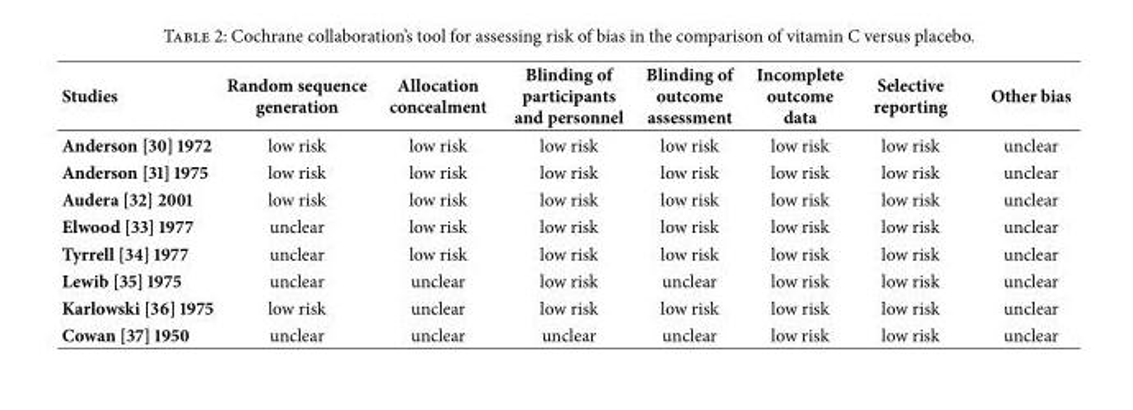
<table><thead><tr><td>Studies</td><td>Random sequence generation</td><td>Allocation concealment</td><td>Blinding of participants and personnel</td><td>Blinding of outcome assessment</td><td>Incomplete outcome data</td><td>Selective reporting</td><td>Other bias</td></tr></thead><tbody><tr><td>Anderson [30] 1972</td><td>low risk</td><td>low risk</td><td>low risk</td><td>low risk</td><td>low risk</td><td>low risk</td><td>unclear</td></tr><tr><td>Anderson [31] 1975</td><td>low risk</td><td>low risk</td><td>low risk</td><td>low risk</td><td>low risk</td><td>low risk</td><td>unclear</td></tr><tr><td>Audera [32] 2001</td><td>low risk</td><td>low risk</td><td>low risk</td><td>low risk</td><td>low risk</td><td>low risk</td><td>unclear</td></tr><tr><td>Elwood [33] 1977</td><td>unclear</td><td>low risk</td><td>low risk</td><td>low risk</td><td>low risk</td><td>low risk</td><td>unclear</td></tr><tr><td>Tyrrell [34] 1977</td><td>unclear</td><td>low risk</td><td>low risk</td><td>low risk</td><td>low risk</td><td>low risk</td><td>unclear</td></tr><tr><td>Lewib [35] 1975</td><td>unclear</td><td>unclear</td><td>low risk</td><td>unclear</td><td>low risk</td><td>low risk</td><td>unclear</td></tr><tr><td>Karlowski [36] 1975</td><td>low risk</td><td>unclear</td><td>low risk</td><td>low risk</td><td>low risk</td><td>low risk</td><td>unclear</td></tr><tr><td>Cowan [37] 1950</td><td>unclear</td><td>unclear</td><td>unclear</td><td>unclear</td><td>low risk</td><td>low risk</td><td>unclear</td></tr></tbody></table>